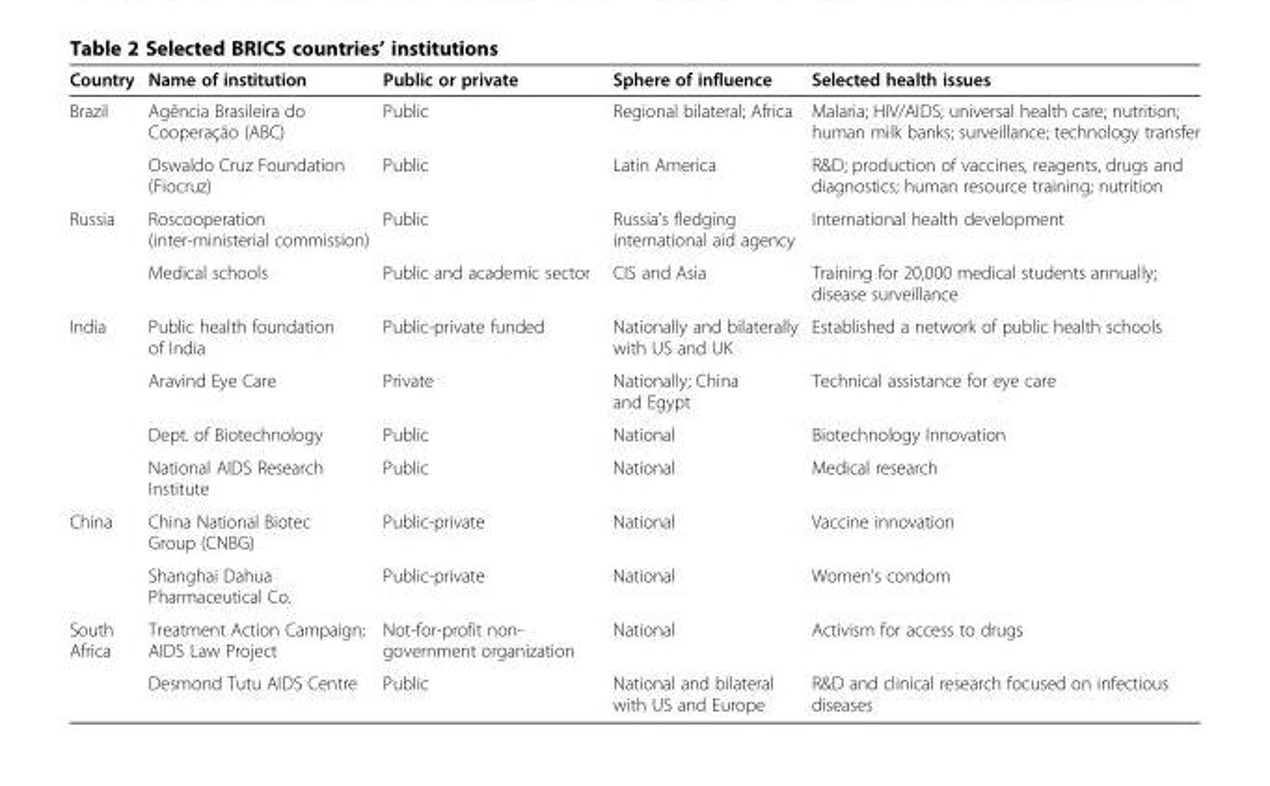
<table><thead><tr><td>Country</td><td>Name of institution</td><td>Public or private</td><td>Sphere of influence</td><td>Selected health issues</td></tr></thead><tbody><tr><td rowspan="2">Brazil</td><td>Agência Brasileira do Cooperação (ABC)</td><td>Public</td><td>Regional bilateral; Africa</td><td>Malaria; HIV/AIDS; universal health care; nutrition; human milk banks; surveillance; technology transfer</td></tr><tr><td>Oswaldo Cruz Foundation (Fiocruz)</td><td>Public</td><td>Latin America</td><td>R&amp;D; production of vaccines, reagents, drugs and diagnostics; human resource training; nutrition</td></tr><tr><td rowspan="2">Russia</td><td>Roscooperation (inter-ministerial commission)</td><td>Public</td><td>Russia’s fledging international aid agency</td><td>International health development</td></tr><tr><td>Medical schools</td><td>Public and academic sector</td><td>CIS and Asia</td><td>Training for 20,000 medical students annually; disease surveillance</td></tr><tr><td rowspan="4">India</td><td>Public health foundation of India</td><td>Public-private funded</td><td>Nationally and bilaterally with US and UK</td><td>Established a network of public health schools</td></tr><tr><td>Aravind Eye Care</td><td>Private</td><td>Nationally; China and Egypt</td><td>Technical assistance for eye care</td></tr><tr><td>Dept. of Biotechnology</td><td>Public</td><td>National</td><td>Biotechnology Innovation</td></tr><tr><td>National AIDS Research Institute</td><td>Public</td><td>National</td><td>Medical research</td></tr><tr><td rowspan="2">China</td><td>China National Biotec Group (CNBG)</td><td>Public-private</td><td>National</td><td>Vaccine innovation</td></tr><tr><td>Shanghai Dahua Pharmaceutical Co.</td><td>Public-private</td><td>National</td><td>Women’s condom</td></tr><tr><td rowspan="2">South Africa</td><td>Treatment Action Campaign; AIDS Law Project</td><td>Not-for-profit non- government organization</td><td>National</td><td>Activism for access to drugs</td></tr><tr><td>Desmond Tutu AIDS Centre</td><td>Public</td><td>National and bilateral with US and Europe</td><td>R&amp;D and clinical research focused on infectious diseases</td></tr></tbody></table>